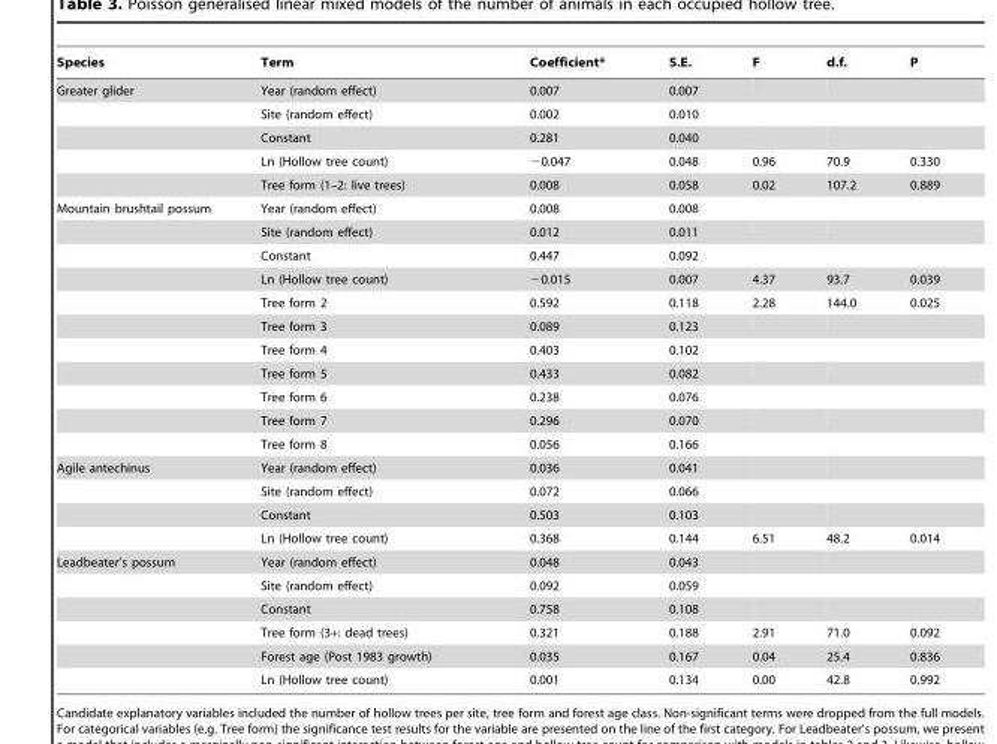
<table><thead><tr><td>Species</td><td>Term</td><td>Coefficient*</td><td>S.E.</td><td>F</td><td>d.f.</td><td>P</td></tr></thead><tbody><tr><td rowspan="5">Greater glider</td><td>Year (random effect)</td><td>0.007</td><td>0.007</td><td></td><td></td><td></td></tr><tr><td>Site (random effect)</td><td>0.002</td><td>0.010</td><td></td><td></td><td></td></tr><tr><td>Constant</td><td>0.281</td><td>0.040</td><td></td><td></td><td></td></tr><tr><td>Ln (Hollow tree count)</td><td>−0.047</td><td>0.048</td><td>0.96</td><td>70.9</td><td>0.330</td></tr><tr><td>Tree form (1–2: live trees)</td><td>0.008</td><td>0.058</td><td>0.02</td><td>107.2</td><td>0.889</td></tr><tr><td rowspan="11">Mountain brushtail possum</td><td>Year (random effect)</td><td>0.008</td><td>0.008</td><td></td><td></td><td></td></tr><tr><td>Site (random effect)</td><td>0.012</td><td>0.011</td><td></td><td></td><td></td></tr><tr><td>Constant</td><td>0.447</td><td>0.092</td><td></td><td></td><td></td></tr><tr><td>Ln (Hollow tree count)</td><td>−0.015</td><td>0.007</td><td>4.37</td><td>93.7</td><td>0.039</td></tr><tr><td>Tree form 2</td><td>0.592</td><td>0.118</td><td>2.28</td><td>144.0</td><td>0.025</td></tr><tr><td>Tree form 3</td><td>0.089</td><td>0.123</td><td></td><td></td><td></td></tr><tr><td>Tree form 4</td><td>0.403</td><td>0.102</td><td></td><td></td><td></td></tr><tr><td>Tree form 5</td><td>0.433</td><td>0.082</td><td></td><td></td><td></td></tr><tr><td>Tree form 6</td><td>0.238</td><td>0.076</td><td></td><td></td><td></td></tr><tr><td>Tree form 7</td><td>0.296</td><td>0.070</td><td></td><td></td><td></td></tr><tr><td>Tree form 8</td><td>0.056</td><td>0.166</td><td></td><td></td><td></td></tr><tr><td rowspan="4">Agile antechinus</td><td>Year (random effect)</td><td>0.036</td><td>0.041</td><td></td><td></td><td></td></tr><tr><td>Site (random effect)</td><td>0.072</td><td>0.066</td><td></td><td></td><td></td></tr><tr><td>Constant</td><td>0.503</td><td>0.103</td><td></td><td></td><td></td></tr><tr><td>Ln (Hollow tree count)</td><td>0.368</td><td>0.144</td><td>6.51</td><td>48.2</td><td>0.014</td></tr><tr><td rowspan="6">Leadbeater’s possum</td><td>Year (random effect)</td><td>0.048</td><td>0.043</td><td></td><td></td><td></td></tr><tr><td>Site (random effect)</td><td>0.092</td><td>0.059</td><td></td><td></td><td></td></tr><tr><td>Constant</td><td>0.758</td><td>0.108</td><td></td><td></td><td></td></tr><tr><td>Tree form (3+: dead trees)</td><td>0.321</td><td>0.188</td><td>2.91</td><td>71.0</td><td>0.092</td></tr><tr><td>Forest age (Post 1983 growth)</td><td>0.035</td><td>0.167</td><td>0.04</td><td>25.4</td><td>0.836</td></tr><tr><td>Ln (Hollow tree count)</td><td>0.001</td><td>0.134</td><td>0.00</td><td>42.8</td><td>0.992</td></tr></tbody></table>